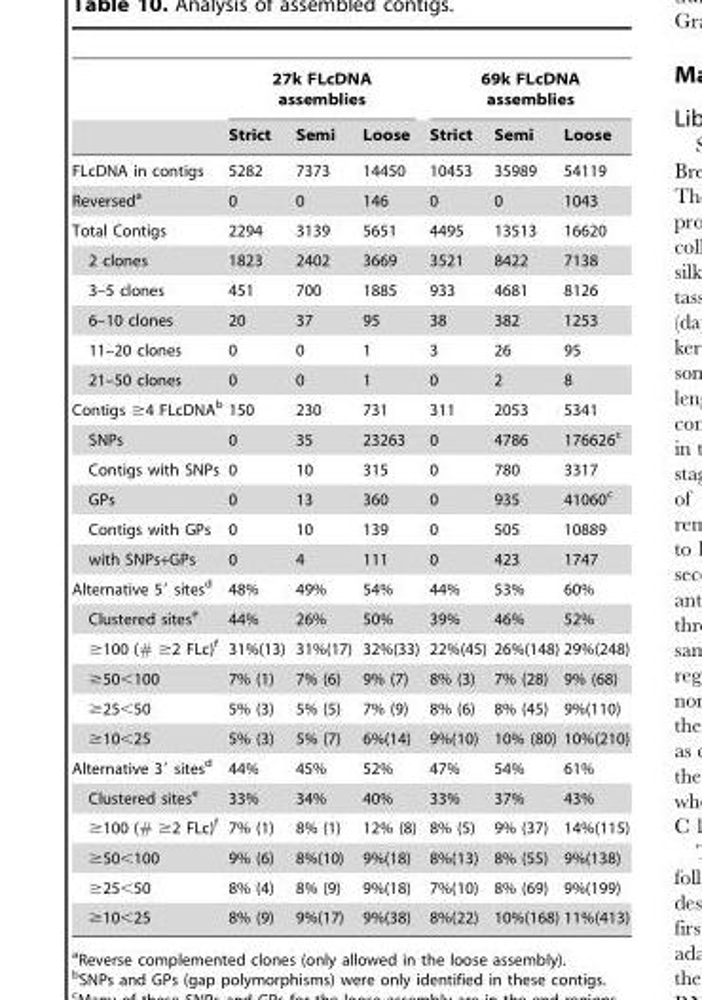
<table><thead><tr><td rowspan="2"></td><td colspan="3">27k FLcDNA assemblies</td><td colspan="3">69k FLcDNA assemblies</td></tr><tr><td>Strict</td><td>Semi</td><td>Loose</td><td>Strict</td><td>Semi</td><td>Loose</td></tr></thead><tbody><tr><td>FLcDNA in contigs</td><td>5282</td><td>7373</td><td>14450</td><td>10453</td><td>35989</td><td>54119</td></tr><tr><td>Reversed<sup>a</sup></td><td>0</td><td>0</td><td>146</td><td>0</td><td>0</td><td>1043</td></tr><tr><td>Total Contigs</td><td>2294</td><td>3139</td><td>5651</td><td>4495</td><td>13513</td><td>16620</td></tr><tr><td>2 clones</td><td>1823</td><td>2402</td><td>3669</td><td>3521</td><td>8422</td><td>7138</td></tr><tr><td>3–5 clones</td><td>451</td><td>700</td><td>1885</td><td>933</td><td>4681</td><td>8126</td></tr><tr><td>6–10 clones</td><td>20</td><td>37</td><td>95</td><td>38</td><td>382</td><td>1253</td></tr><tr><td>11–20 clones</td><td>0</td><td>0</td><td>1</td><td>3</td><td>26</td><td>95</td></tr><tr><td>21–50 clones</td><td>0</td><td>0</td><td>1</td><td>0</td><td>2</td><td>8</td></tr><tr><td>Contigs ≥4 FLcDNA<sup>b</sup></td><td>150</td><td>230</td><td>731</td><td>311</td><td>2053</td><td>5341</td></tr><tr><td>SNPs</td><td>0</td><td>35</td><td>23263</td><td>0</td><td>4786</td><td>176626<sup>c</sup></td></tr><tr><td>Contigs with SNPs</td><td>0</td><td>10</td><td>315</td><td>0</td><td>780</td><td>3317</td></tr><tr><td>GPs</td><td>0</td><td>13</td><td>360</td><td>0</td><td>935</td><td>41060<sup>c</sup></td></tr><tr><td>Contigs with GPs</td><td>0</td><td>10</td><td>139</td><td>0</td><td>505</td><td>10889</td></tr><tr><td>with SNPs+GPs</td><td>0</td><td>4</td><td>111</td><td>0</td><td>423</td><td>1747</td></tr><tr><td>Alternative 5′ sites<sup>d</sup></td><td>48%</td><td>49%</td><td>54%</td><td>44%</td><td>53%</td><td>60%</td></tr><tr><td>Clustered sites<sup>e</sup></td><td>44%</td><td>26%</td><td>50%</td><td>39%</td><td>46%</td><td>52%</td></tr><tr><td>≥100 (# ≥2 FLc)<sup>f</sup></td><td>31%(13)</td><td>31%(17)</td><td>32%(33)</td><td>22%(45)</td><td>26%(148)</td><td>29%(248)</td></tr><tr><td>≥50&lt;100</td><td>7% (1)</td><td>7% (6)</td><td>9% (7)</td><td>8% (3)</td><td>7% (28)</td><td>9% (68)</td></tr><tr><td>≥25&lt;50</td><td>5% (3)</td><td>5% (5)</td><td>7% (9)</td><td>8% (6)</td><td>8% (45)</td><td>9%(110)</td></tr><tr><td>≥10&lt;25</td><td>5% (3)</td><td>5% (7)</td><td>6%(14)</td><td>9%(10)</td><td>10% (80)</td><td>10%(210)</td></tr><tr><td>Alternative 3′ sites<sup>d</sup></td><td>44%</td><td>45%</td><td>52%</td><td>47%</td><td>54%</td><td>61%</td></tr><tr><td>Clustered sites<sup>e</sup></td><td>33%</td><td>34%</td><td>40%</td><td>33%</td><td>37%</td><td>43%</td></tr><tr><td>≥100 (# ≥2 FLc)<sup>f</sup></td><td>7% (1)</td><td>8% (1)</td><td>12% (8)</td><td>8% (5)</td><td>9% (37)</td><td>14%(115)</td></tr><tr><td>≥50&lt;100</td><td>9% (6)</td><td>8%(10)</td><td>9%(18)</td><td>8%(13)</td><td>8% (55)</td><td>9%(138)</td></tr><tr><td>≥25&lt;50</td><td>8% (4)</td><td>8% (9)</td><td>9%(18)</td><td>7%(10)</td><td>8% (69)</td><td>9%(199)</td></tr><tr><td>≥10&lt;25</td><td>8% (9)</td><td>9%(17)</td><td>9%(38)</td><td>8%(22)</td><td>10%(168)</td><td>11%(413)</td></tr></tbody></table>